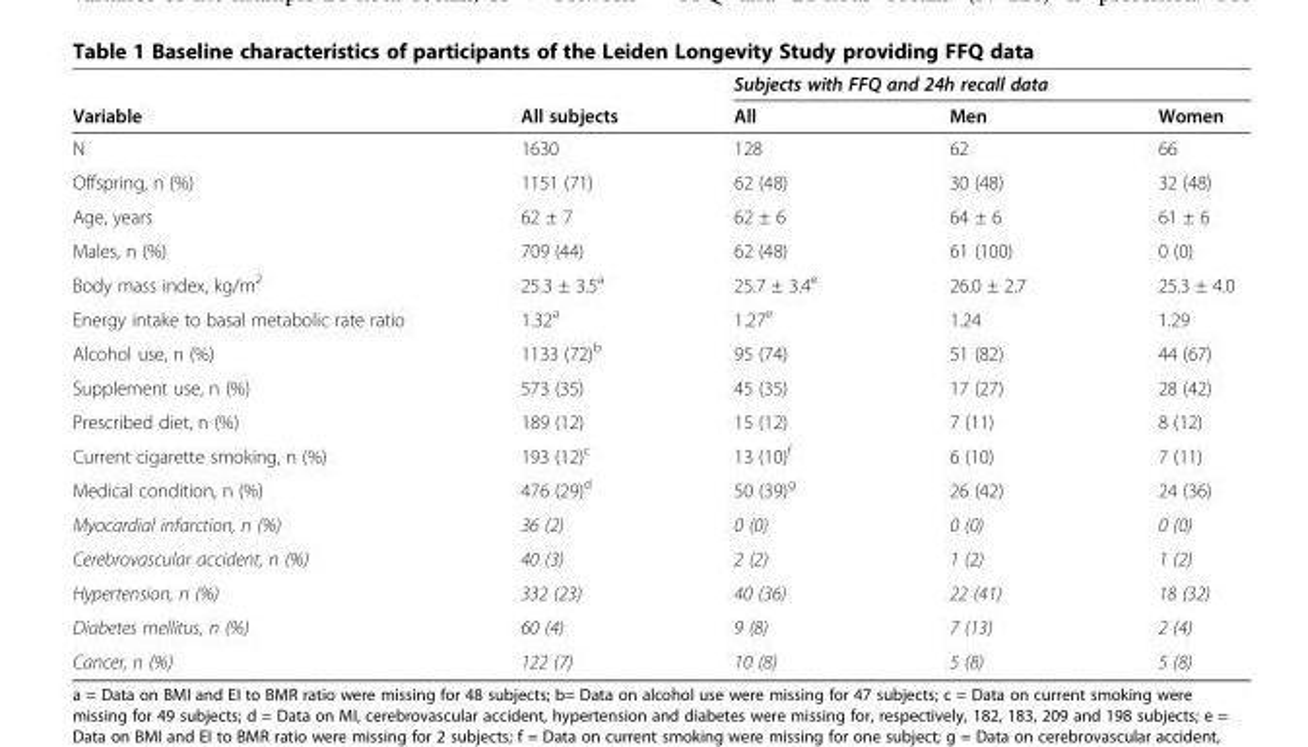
<table><thead><tr><td rowspan="2">Variable</td><td rowspan="2">All subjects</td><td colspan="3">Subjects with FFQ and 24h recall data</td></tr><tr><td>All</td><td>Men</td><td>Women</td></tr></thead><tbody><tr><td>N</td><td>1630</td><td>128</td><td>62</td><td>66</td></tr><tr><td>Offspring, n (%)</td><td>1151 (71)</td><td>62 (48)</td><td>30 (48)</td><td>32 (48)</td></tr><tr><td>Age, years</td><td>62 ± 7</td><td>62 ± 6</td><td>64 ± 6</td><td>61 ± 6</td></tr><tr><td>Males, n (%)</td><td>709 (44)</td><td>62 (48)</td><td>61 (100)</td><td>0 (0)</td></tr><tr><td>Body mass index, kg/m<sup>2</sup></td><td>25.3 ± 3.5<sup>a</sup></td><td>25.7 ± 3.4<sup>e</sup></td><td>26.0 ± 2.7</td><td>25.3 ± 4.0</td></tr><tr><td>Energy intake to basal metabolic rate ratio</td><td>1.32<sup>a</sup></td><td>1.27<sup>e</sup></td><td>1.24</td><td>1.29</td></tr><tr><td>Alcohol use, n (%)</td><td>1133 (72)<sup>b</sup></td><td>95 (74)</td><td>51 (82)</td><td>44 (67)</td></tr><tr><td>Supplement use, n (%)</td><td>573 (35)</td><td>45 (35)</td><td>17 (27)</td><td>28 (42)</td></tr><tr><td>Prescribed diet, n (%)</td><td>189 (12)</td><td>15 (12)</td><td>7 (11)</td><td>8 (12)</td></tr><tr><td>Current cigarette smoking, n (%)</td><td>193 (12)<sup>c</sup></td><td>13 (10)<sup>f</sup></td><td>6 (10)</td><td>7 (11)</td></tr><tr><td>Medical condition, n (%)</td><td>476 (29)<sup>d</sup></td><td>50 (39)<sup>g</sup></td><td>26 (42)</td><td>24 (36)</td></tr><tr><td>Myocardial infarction, n (%)</td><td>36 (2)</td><td>0 (0)</td><td>0 (0)</td><td>0 (0)</td></tr><tr><td>Cerebrovascular accident, n (%)</td><td>40 (3)</td><td>2 (2)</td><td>1 (2)</td><td>1 (2)</td></tr><tr><td>Hypertension, n (%)</td><td>332 (23)</td><td>40 (36)</td><td>22 (41)</td><td>18 (32)</td></tr><tr><td>Diabetes mellitus, n (%)</td><td>60 (4)</td><td>9 (8)</td><td>7 (13)</td><td>2 (4)</td></tr><tr><td>Cancer, n (%)</td><td>122 (7)</td><td>10 (8)</td><td>5 (8)</td><td>5 (8)</td></tr></tbody></table>